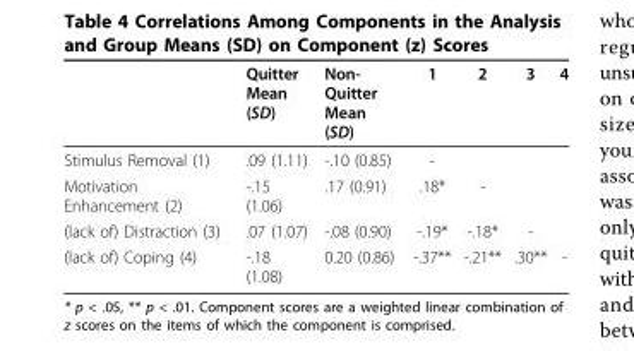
<table><thead><tr><td></td><td>Quitter Mean (SD)</td><td>Non- Quitter Mean (SD)</td><td>1</td><td>2</td><td>3</td><td>4</td></tr></thead><tbody><tr><td>Stimulus Removal (1)</td><td>.09 (1.11)</td><td>-.10 (0.85)</td><td>-</td><td></td><td></td><td></td></tr><tr><td>Motivation Enhancement (2)</td><td>-.15 (1.06)</td><td>.17 (0.91)</td><td>.18*</td><td>-</td><td></td><td></td></tr><tr><td>(lack of) Distraction (3)</td><td>.07 (1.07)</td><td>-.08 (0.90)</td><td>-.19*</td><td>-.18*</td><td>-</td><td></td></tr><tr><td>(lack of) Coping (4)</td><td>-.18 (1.08)</td><td>0.20 (0.86)</td><td>-.37**</td><td>-.21**</td><td>.30**</td><td>-</td></tr></tbody></table>